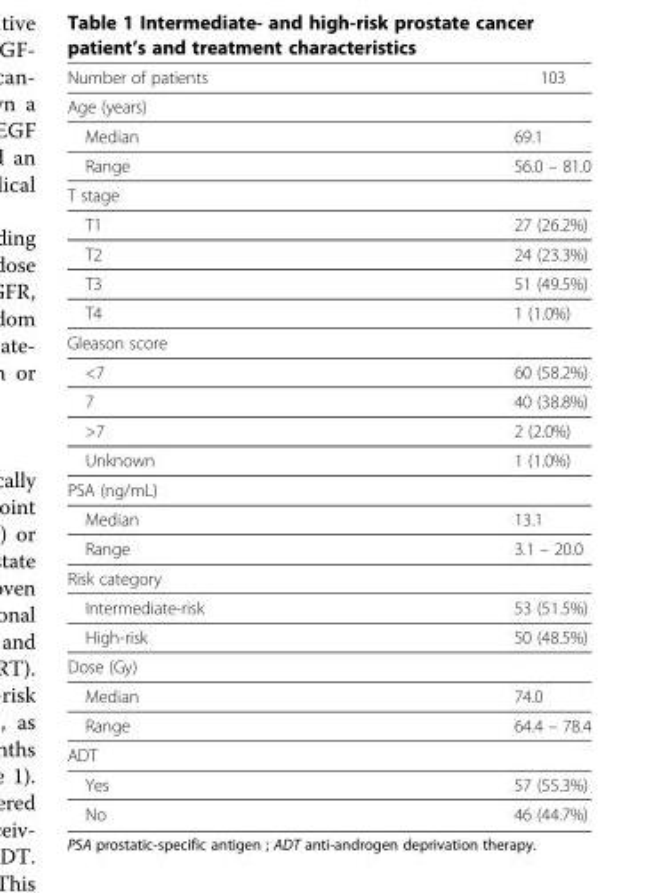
<table><thead><tr><td>Number of patients</td><td>103</td></tr></thead><tbody><tr><td colspan="2">Age (years)</td></tr><tr><td>Median</td><td>69.1</td></tr><tr><td>Range</td><td>56.0 – 81.0</td></tr><tr><td colspan="2">T stage</td></tr><tr><td>T1</td><td>27 (26.2%)</td></tr><tr><td>T2</td><td>24 (23.3%)</td></tr><tr><td>T3</td><td>51 (49.5%)</td></tr><tr><td>T4</td><td>1 (1.0%)</td></tr><tr><td colspan="2">Gleason score</td></tr><tr><td>&lt;7</td><td>60 (58.2%)</td></tr><tr><td>7</td><td>40 (38.8%)</td></tr><tr><td>&gt;7</td><td>2 (2.0%)</td></tr><tr><td>Unknown</td><td>1 (1.0%)</td></tr><tr><td colspan="2">PSA (ng/mL)</td></tr><tr><td>Median</td><td>13.1</td></tr><tr><td>Range</td><td>3.1 – 20.0</td></tr><tr><td colspan="2">Risk category</td></tr><tr><td>Intermediate-risk</td><td>53 (51.5%)</td></tr><tr><td>High-risk</td><td>50 (48.5%)</td></tr><tr><td colspan="2">Dose (Gy)</td></tr><tr><td>Median</td><td>74.0</td></tr><tr><td>Range</td><td>64.4 – 78.4</td></tr><tr><td colspan="2">ADT</td></tr><tr><td>Yes</td><td>57 (55.3%)</td></tr><tr><td>No</td><td>46 (44.7%)</td></tr></tbody></table>